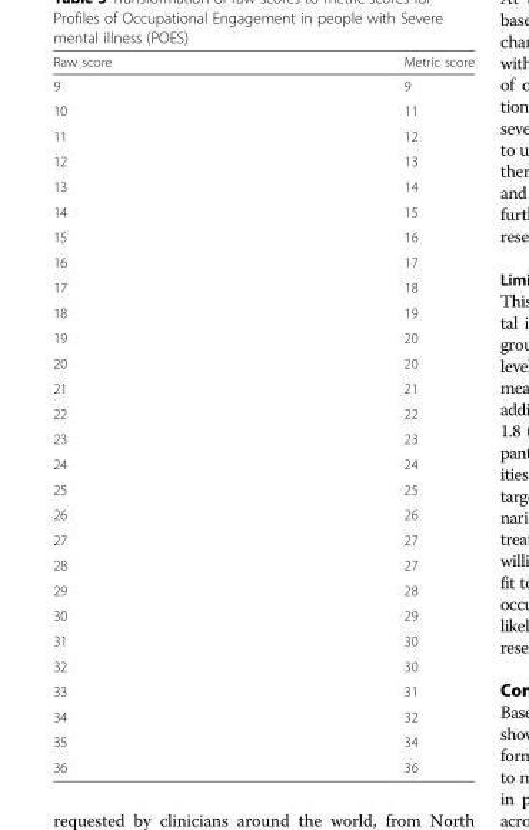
<table><thead><tr><td>Raw score</td><td>Metric score</td></tr></thead><tbody><tr><td>9</td><td>9</td></tr><tr><td>10</td><td>11</td></tr><tr><td>11</td><td>12</td></tr><tr><td>12</td><td>13</td></tr><tr><td>13</td><td>14</td></tr><tr><td>14</td><td>15</td></tr><tr><td>15</td><td>16</td></tr><tr><td>16</td><td>17</td></tr><tr><td>17</td><td>18</td></tr><tr><td>18</td><td>19</td></tr><tr><td>19</td><td>20</td></tr><tr><td>20</td><td>20</td></tr><tr><td>21</td><td>21</td></tr><tr><td>22</td><td>22</td></tr><tr><td>23</td><td>23</td></tr><tr><td>24</td><td>24</td></tr><tr><td>25</td><td>25</td></tr><tr><td>26</td><td>26</td></tr><tr><td>27</td><td>27</td></tr><tr><td>28</td><td>27</td></tr><tr><td>29</td><td>28</td></tr><tr><td>30</td><td>29</td></tr><tr><td>31</td><td>30</td></tr><tr><td>32</td><td>30</td></tr><tr><td>33</td><td>31</td></tr><tr><td>34</td><td>32</td></tr><tr><td>35</td><td>34</td></tr><tr><td>36</td><td>36</td></tr></tbody></table>